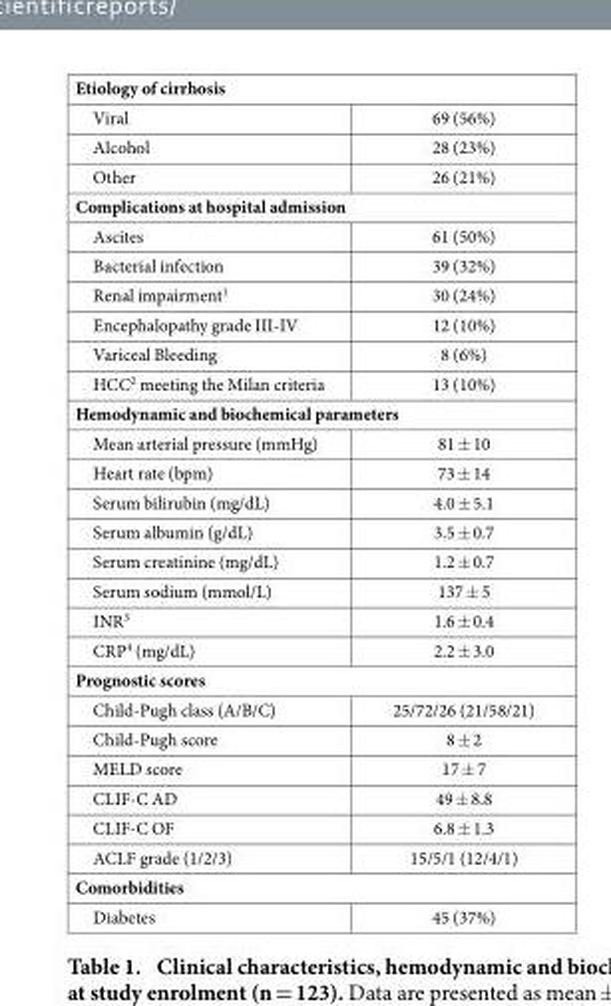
<table><tbody><tr><td colspan="2">Etiology of cirrhosis</td></tr><tr><td>Viral</td><td>69 (56%)</td></tr><tr><td>Alcohol</td><td>28 (23%)</td></tr><tr><td>Other</td><td>26 (21%)</td></tr><tr><td colspan="2">Complications at hospital admission</td></tr><tr><td>Ascites</td><td>61 (50%)</td></tr><tr><td>Bacterial infection</td><td>39 (32%)</td></tr><tr><td>Renal impairment<sup>1</sup></td><td>30 (24%)</td></tr><tr><td>Encephalopathy grade III-IV</td><td>12 (10%)</td></tr><tr><td>Variceal Bleeding</td><td>8 (6%)</td></tr><tr><td>HCC<sup>2</sup> meeting the Milan criteria</td><td>13 (10%)</td></tr><tr><td colspan="2">Hemodynamic and biochemical parameters</td></tr><tr><td>Mean arterial pressure (mmHg)</td><td>81 ± 10</td></tr><tr><td>Heart rate (bpm)</td><td>73 ± 14</td></tr><tr><td>Serum bilirubin (mg/dL)</td><td>4.0 ± 5.1</td></tr><tr><td>Serum albumin (g/dL)</td><td>3.5 ± 0.7</td></tr><tr><td>Serum creatinine (mg/dL)</td><td>1.2 ± 0.7</td></tr><tr><td>Serum sodium (mmol/L)</td><td>137 ± 5</td></tr><tr><td>INR<sup>3</sup></td><td>1.6 ± 0.4</td></tr><tr><td>CRP<sup>4</sup> (mg/dL)</td><td>2.2 ± 3.0</td></tr><tr><td colspan="2">Prognostic scores</td></tr><tr><td>Child-Pugh class (A/B/C)</td><td>25/72/26 (21/58/21)</td></tr><tr><td>Child-Pugh score</td><td>8 ± 2</td></tr><tr><td>MELD score</td><td>17 ± 7</td></tr><tr><td>CLIF-C AD</td><td>49 ± 8.8</td></tr><tr><td>CLIF-C OF</td><td>6.8 ± 1.3</td></tr><tr><td>ACLF grade (1/2/3)</td><td>15/5/1 (12/4/1)</td></tr><tr><td colspan="2">Comorbidities</td></tr><tr><td>Diabetes</td><td>45 (37%)</td></tr></tbody></table>